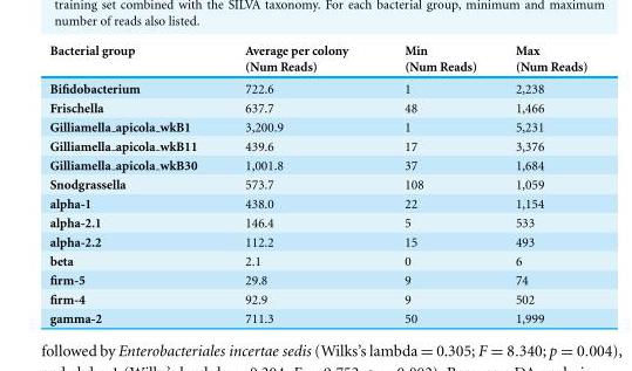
<table><thead><tr><td>Bacterial group</td><td>Average per colony (Num Reads)</td><td>Min (Num Reads)</td><td>Max (Num Reads)</td></tr></thead><tbody><tr><td>Bifidobacterium</td><td>722.6</td><td>1</td><td>2,238</td></tr><tr><td>Frischella</td><td>637.7</td><td>48</td><td>1,466</td></tr><tr><td>Gilliamella <sub>apicola</sub> wkB1</td><td>3,200.9</td><td>1</td><td>5,231</td></tr><tr><td>Gilliamella <sub>apicola</sub> wkB11</td><td>439.6</td><td>17</td><td>3,376</td></tr><tr><td>Gilliamella <sub>apicola</sub> wkB30</td><td>1,001.8</td><td>37</td><td>1,684</td></tr><tr><td>Snodgrassella</td><td>573.7</td><td>108</td><td>1,059</td></tr><tr><td>alpha-1</td><td>438.0</td><td>22</td><td>1,154</td></tr><tr><td>alpha-2.1</td><td>146.4</td><td>5</td><td>533</td></tr><tr><td>alpha-2.2</td><td>112.2</td><td>15</td><td>493</td></tr><tr><td>beta</td><td>2.1</td><td>0</td><td>6</td></tr><tr><td>firm-5</td><td>29.8</td><td>9</td><td>74</td></tr><tr><td>firm-4</td><td>92.9</td><td>9</td><td>502</td></tr><tr><td>gamma-2</td><td>711.3</td><td>50</td><td>1,999</td></tr></tbody></table>